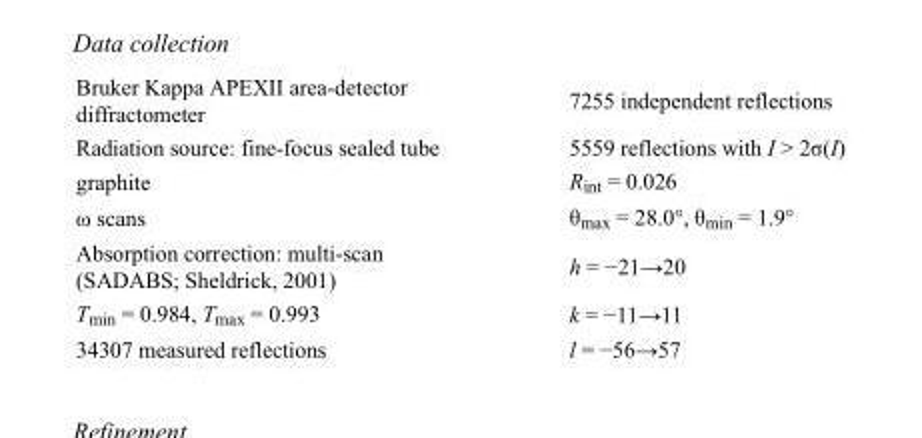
<table><tbody><tr><td>Bruker Kappa APEXII area-detector diffractometer</td><td>7255 independent reflections</td></tr><tr><td>Radiation source: fine-focus sealed tube</td><td>5559 reflections with I &gt; 2σ(I)</td></tr><tr><td>graphite</td><td>R<sub>int</sub> = 0.026</td></tr><tr><td>ω scans</td><td>θ<sub>max</sub> = 28.0°, θ<sub>min</sub> = 1.9°</td></tr><tr><td>Absorption correction: multi-scan (SADABS; Sheldrick, 2001)</td><td>h = −21→20</td></tr><tr><td>T<sub>min</sub> = 0.984, T<sub>max</sub> = 0.993</td><td>k = −11→11</td></tr><tr><td>34307 measured reflections</td><td>l = −56→57</td></tr></tbody></table>